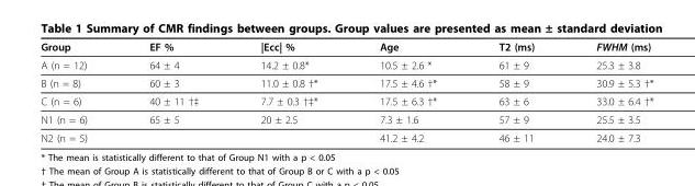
<table><thead><tr><td>Group</td><td>EF %</td><td>|Ecc| %</td><td>Age</td><td>T2 (ms)</td><td>FWHM (ms)</td></tr></thead><tbody><tr><td>A (n = 12)</td><td>64 ± 4</td><td>14.2 ± 0.8*</td><td>10.5 ± 2.6 *</td><td>61 ± 9</td><td>25.3 ± 3.8</td></tr><tr><td>B (n = 8)</td><td>60 ± 3</td><td>11.0 ± 0.8 †*</td><td>17.5 ± 4.6 †*</td><td>58 ± 9</td><td>30.9 ± 5.3 †*</td></tr><tr><td>C (n = 6)</td><td>40 ± 11 †‡</td><td>7.7 ± 0.3 †‡*</td><td>17.5 ± 6.3 †*</td><td>63 ± 6</td><td>33.0 ± 6.4 †*</td></tr><tr><td>N1 (n = 6)</td><td>65 ± 5</td><td>20 ± 2.5</td><td>7.3 ± 1.6</td><td>57 ± 9</td><td>25.5 ± 3.5</td></tr><tr><td>N2 (n = 5)</td><td></td><td></td><td>41.2 ± 4.2</td><td>46 ± 11</td><td>24.0 ± 7.3</td></tr></tbody></table>